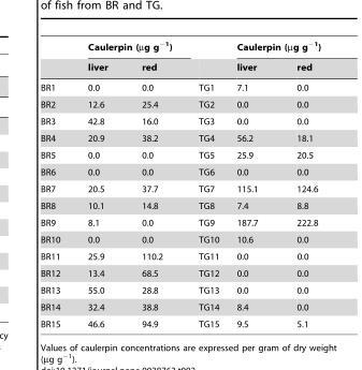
<table><thead><tr><td rowspan="2"></td><td colspan="2">Caulerpin (µg g<sup>−1</sup>)</td><td rowspan="2"></td><td colspan="2">Caulerpin (µg g<sup>−1</sup>)</td></tr><tr><td>liver</td><td>red</td><td>liver</td><td>red</td></tr></thead><tbody><tr><td>BR1</td><td>0.0</td><td>0.0</td><td>TG1</td><td>7.1</td><td>0.0</td></tr><tr><td>BR2</td><td>12.6</td><td>25.4</td><td>TG2</td><td>0.0</td><td>0.0</td></tr><tr><td>BR3</td><td>42.8</td><td>16.0</td><td>TG3</td><td>0.0</td><td>0.0</td></tr><tr><td>BR4</td><td>20.9</td><td>38.2</td><td>TG4</td><td>56.2</td><td>18.1</td></tr><tr><td>BR5</td><td>0.0</td><td>0.0</td><td>TG5</td><td>25.9</td><td>20.5</td></tr><tr><td>BR6</td><td>0.0</td><td>0.0</td><td>TG6</td><td>0.0</td><td>0.0</td></tr><tr><td>BR7</td><td>20.5</td><td>37.7</td><td>TG7</td><td>115.1</td><td>124.6</td></tr><tr><td>BR8</td><td>10.1</td><td>14.8</td><td>TG8</td><td>7.4</td><td>8.8</td></tr><tr><td>BR9</td><td>8.1</td><td>0.0</td><td>TG9</td><td>187.7</td><td>222.8</td></tr><tr><td>BR10</td><td>0.0</td><td>0.0</td><td>TG10</td><td>10.6</td><td>0.0</td></tr><tr><td>BR11</td><td>25.9</td><td>110.2</td><td>TG11</td><td>0.0</td><td>0.0</td></tr><tr><td>BR12</td><td>13.4</td><td>68.5</td><td>TG12</td><td>0.0</td><td>0.0</td></tr><tr><td>BR13</td><td>55.0</td><td>28.8</td><td>TG13</td><td>0.0</td><td>0.0</td></tr><tr><td>BR14</td><td>32.4</td><td>38.8</td><td>TG14</td><td>8.4</td><td>0.0</td></tr><tr><td>BR15</td><td>46.6</td><td>94.9</td><td>TG15</td><td>9.5</td><td>5.1</td></tr></tbody></table>